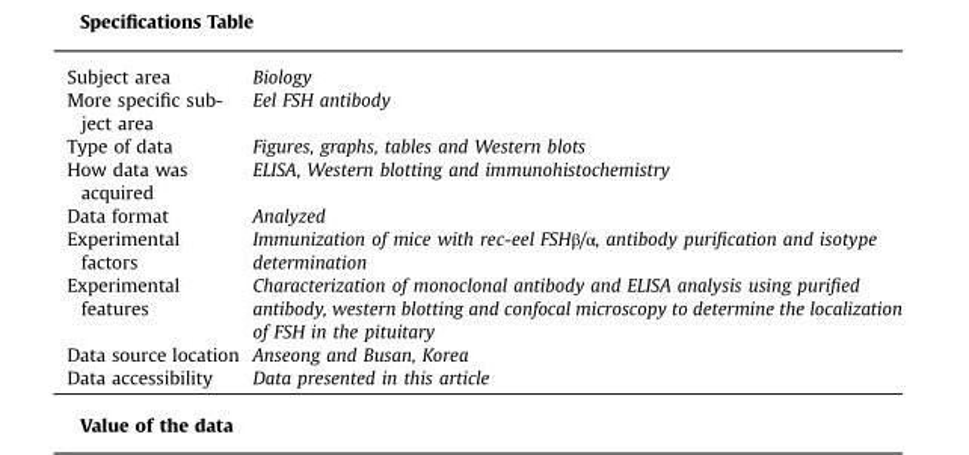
<table><tbody><tr><td>Subject area</td><td>Biology</td></tr><tr><td>More specific sub- ject area</td><td>Eel FSH antibody</td></tr><tr><td>Type of data</td><td>Figures, graphs, tables and Western blots</td></tr><tr><td>How data was acquired</td><td>ELISA, Western blotting and immunohistochemistry</td></tr><tr><td>Data format</td><td>Analyzed</td></tr><tr><td>Experimental factors</td><td>Immunization of mice with rec-eel FSHβ/α, antibody purification and isotype determination</td></tr><tr><td>Experimental features</td><td>Characterization of monoclonal antibody and ELISA analysis using purified antibody, western blotting and confocal microscopy to determine the localization of FSH in the pituitary</td></tr><tr><td>Data source location</td><td>Anseong and Busan, Korea</td></tr><tr><td>Data accessibility</td><td>Data presented in this article</td></tr></tbody></table>